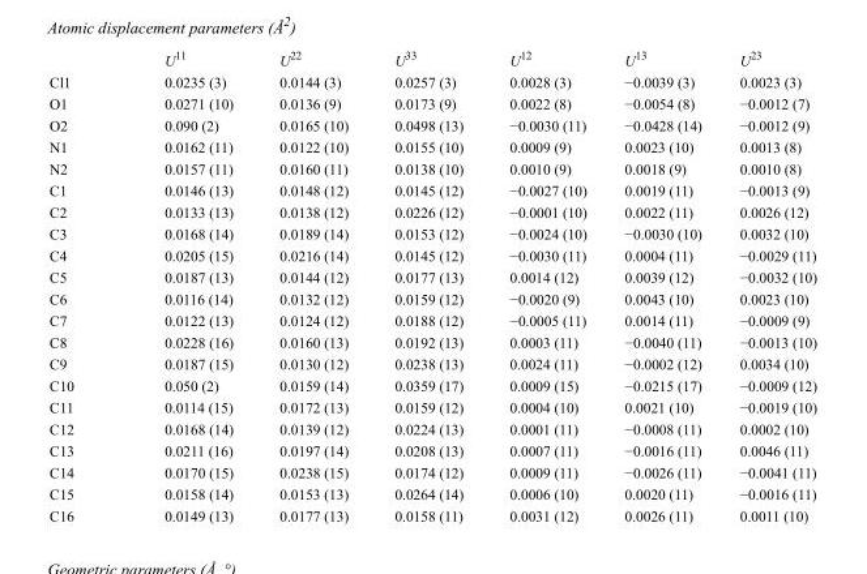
<table><thead><tr><td></td><td>U<sup>11</sup></td><td>U<sup>22</sup></td><td>U<sup>33</sup></td><td>U<sup>12</sup></td><td>U<sup>13</sup></td><td>U<sup>23</sup></td></tr></thead><tbody><tr><td>Cl1</td><td>0.0235 (3)</td><td>0.0144 (3)</td><td>0.0257 (3)</td><td>0.0028 (3)</td><td>−0.0039 (3)</td><td>0.0023 (3)</td></tr><tr><td>O1</td><td>0.0271 (10)</td><td>0.0136 (9)</td><td>0.0173 (9)</td><td>0.0022 (8)</td><td>−0.0054 (8)</td><td>−0.0012 (7)</td></tr><tr><td>O2</td><td>0.090 (2)</td><td>0.0165 (10)</td><td>0.0498 (13)</td><td>−0.0030 (11)</td><td>−0.0428 (14)</td><td>−0.0012 (9)</td></tr><tr><td>N1</td><td>0.0162 (11)</td><td>0.0122 (10)</td><td>0.0155 (10)</td><td>0.0009 (9)</td><td>0.0023 (10)</td><td>0.0013 (8)</td></tr><tr><td>N2</td><td>0.0157 (11)</td><td>0.0160 (11)</td><td>0.0138 (10)</td><td>0.0010 (9)</td><td>0.0018 (9)</td><td>0.0010 (8)</td></tr><tr><td>C1</td><td>0.0146 (13)</td><td>0.0148 (12)</td><td>0.0145 (12)</td><td>−0.0027 (10)</td><td>0.0019 (11)</td><td>−0.0013 (9)</td></tr><tr><td>C2</td><td>0.0133 (13)</td><td>0.0138 (12)</td><td>0.0226 (12)</td><td>−0.0001 (10)</td><td>0.0022 (11)</td><td>0.0026 (12)</td></tr><tr><td>C3</td><td>0.0168 (14)</td><td>0.0189 (14)</td><td>0.0153 (12)</td><td>−0.0024 (10)</td><td>−0.0030 (10)</td><td>0.0032 (10)</td></tr><tr><td>C4</td><td>0.0205 (15)</td><td>0.0216 (14)</td><td>0.0145 (12)</td><td>−0.0030 (11)</td><td>0.0004 (11)</td><td>−0.0029 (11)</td></tr><tr><td>C5</td><td>0.0187 (13)</td><td>0.0144 (12)</td><td>0.0177 (13)</td><td>0.0014 (12)</td><td>0.0039 (12)</td><td>−0.0032 (10)</td></tr><tr><td>C6</td><td>0.0116 (14)</td><td>0.0132 (12)</td><td>0.0159 (12)</td><td>−0.0020 (9)</td><td>0.0043 (10)</td><td>0.0023 (10)</td></tr><tr><td>C7</td><td>0.0122 (13)</td><td>0.0124 (12)</td><td>0.0188 (12)</td><td>−0.0005 (11)</td><td>0.0014 (11)</td><td>−0.0009 (9)</td></tr><tr><td>C8</td><td>0.0228 (16)</td><td>0.0160 (13)</td><td>0.0192 (13)</td><td>0.0003 (11)</td><td>−0.0040 (11)</td><td>−0.0013 (10)</td></tr><tr><td>C9</td><td>0.0187 (15)</td><td>0.0130 (12)</td><td>0.0238 (13)</td><td>0.0024 (11)</td><td>−0.0002 (12)</td><td>0.0034 (10)</td></tr><tr><td>C10</td><td>0.050 (2)</td><td>0.0159 (14)</td><td>0.0359 (17)</td><td>0.0009 (15)</td><td>−0.0215 (17)</td><td>−0.0009 (12)</td></tr><tr><td>C11</td><td>0.0114 (15)</td><td>0.0172 (13)</td><td>0.0159 (12)</td><td>0.0004 (10)</td><td>0.0021 (10)</td><td>−0.0019 (10)</td></tr><tr><td>C12</td><td>0.0168 (14)</td><td>0.0139 (12)</td><td>0.0224 (13)</td><td>0.0001 (11)</td><td>−0.0008 (11)</td><td>0.0002 (10)</td></tr><tr><td>C13</td><td>0.0211 (16)</td><td>0.0197 (14)</td><td>0.0208 (13)</td><td>0.0007 (11)</td><td>−0.0016 (11)</td><td>0.0046 (11)</td></tr><tr><td>C14</td><td>0.0170 (15)</td><td>0.0238 (15)</td><td>0.0174 (12)</td><td>0.0009 (11)</td><td>−0.0026 (11)</td><td>−0.0041 (11)</td></tr><tr><td>C15</td><td>0.0158 (14)</td><td>0.0153 (13)</td><td>0.0264 (14)</td><td>0.0006 (10)</td><td>0.0020 (11)</td><td>−0.0016 (11)</td></tr><tr><td>C16</td><td>0.0149 (13)</td><td>0.0177 (13)</td><td>0.0158 (11)</td><td>0.0031 (12)</td><td>0.0026 (11)</td><td>0.0011 (10)</td></tr></tbody></table>